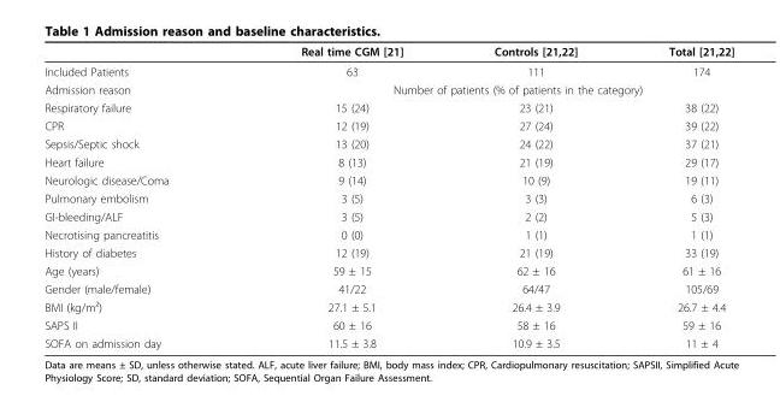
<table><thead><tr><td></td><td>Real time CGM [21]</td><td>Controls [21,22]</td><td>Total [21,22]</td></tr></thead><tbody><tr><td>Included Patients</td><td>63</td><td>111</td><td>174</td></tr><tr><td>Admission reason</td><td colspan="3">Number of patients (% of patients in the category)</td></tr><tr><td>Respiratory failure</td><td>15 (24)</td><td>23 (21)</td><td>38 (22)</td></tr><tr><td>CPR</td><td>12 (19)</td><td>27 (24)</td><td>39 (22)</td></tr><tr><td>Sepsis/Septic shock</td><td>13 (20)</td><td>24 (22)</td><td>37 (21)</td></tr><tr><td>Heart failure</td><td>8 (13)</td><td>21 (19)</td><td>29 (17)</td></tr><tr><td>Neurologic disease/Coma</td><td>9 (14)</td><td>10 (9)</td><td>19 (11)</td></tr><tr><td>Pulmonary embolism</td><td>3 (5)</td><td>3 (3)</td><td>6 (3)</td></tr><tr><td>GI-bleeding/ALF</td><td>3 (5)</td><td>2 (2)</td><td>5 (3)</td></tr><tr><td>Necrotising pancreatitis</td><td>0 (0)</td><td>1 (1)</td><td>1 (1)</td></tr><tr><td>History of diabetes</td><td>12 (19)</td><td>21 (19)</td><td>33 (19)</td></tr><tr><td>Age (years)</td><td>59 ± 15</td><td>62 ± 16</td><td>61 ± 16</td></tr><tr><td>Gender (male/female)</td><td>41/22</td><td>64/47</td><td>105/69</td></tr><tr><td>BMI (kg/m²)</td><td>27.1 ± 5.1</td><td>26.4 ± 3.9</td><td>26.7 ± 4.4</td></tr><tr><td>SAPS II</td><td>60 ± 16</td><td>58 ± 16</td><td>59 ± 16</td></tr><tr><td>SOFA on admission day</td><td>11.5 ± 3.8</td><td>10.9 ± 3.5</td><td>11 ± 4</td></tr></tbody></table>